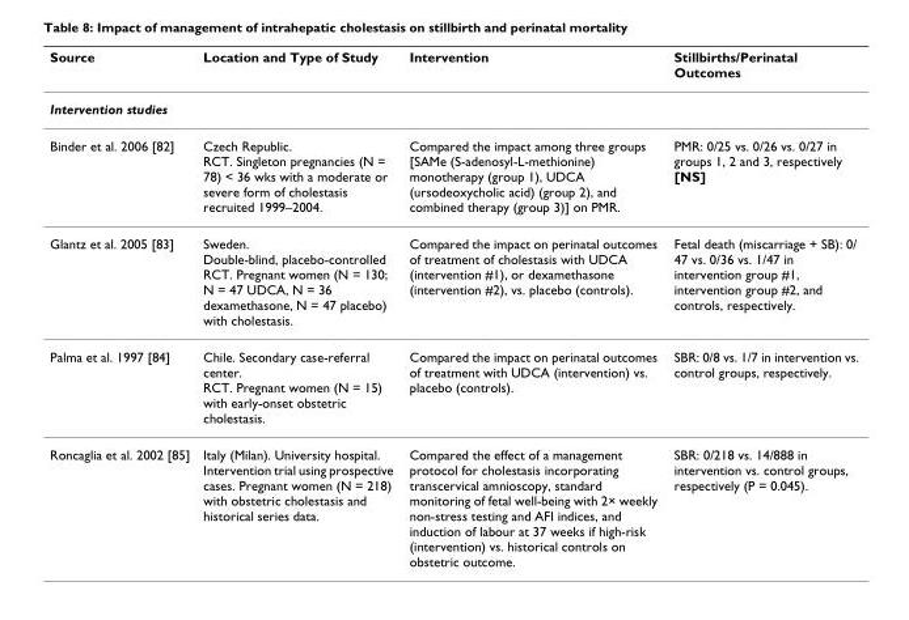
<table><thead><tr><td>Source</td><td>Location and Type of Study</td><td>Intervention</td><td>Stillbirths/Perinatal Outcomes</td></tr></thead><tbody><tr><td colspan="4">Intervention studies</td></tr><tr><td>Binder et al. 2006 [82]</td><td>Czech Republic. RCT. Singleton pregnancies (N = 78) &lt; 36 wks with a moderate or severe form of cholestasis recruited 1999–2004.</td><td>Compared the impact among three groups [SAMe (S-adenosyl-L-methionine) monotherapy (group 1), UDCA (ursodeoxycholic acid) (group 2), and combined therapy (group 3)] on PMR.</td><td>PMR: 0/25 vs. 0/26 vs. 0/27 in groups 1, 2 and 3, respectively [NS]</td></tr><tr><td>Glantz et al. 2005 [83]</td><td>Sweden. Double-blind, placebo-controlled RCT. Pregnant women (N = 130; N = 47 UDCA, N = 36 dexamethasone, N = 47 placebo) with cholestasis.</td><td>Compared the impact on perinatal outcomes of treatment of cholestasis with UDCA (intervention #1), or dexamethasone (intervention #2), vs. placebo (controls).</td><td>Fetal death (miscarriage + SB): 0/ 47 vs. 0/36 vs. 1/47 in intervention group #1, intervention group #2, and controls, respectively.</td></tr><tr><td>Palma et al. 1997 [84]</td><td>Chile. Secondary case-referral center. RCT. Pregnant women (N = 15) with early-onset obstetric cholestasis.</td><td>Compared the impact on perinatal outcomes of treatment with UDCA (intervention) vs. placebo (controls).</td><td>SBR: 0/8 vs. 1/7 in intervention vs. control groups, respectively.</td></tr><tr><td>Roncaglia et al. 2002 [85]</td><td>Italy (Milan). University hospital. Intervention trial using prospective cases. Pregnant women (N = 218) with obstetric cholestasis and historical series data.</td><td>Compared the effect of a management protocol for cholestasis incorporating transcervical amnioscopy, standard monitoring of fetal well-being with 2× weekly non-stress testing and AFI indices, and induction of labour at 37 weeks if high-risk (intervention) vs. historical controls on obstetric outcome.</td><td>SBR: 0/218 vs. 14/888 in intervention vs. control groups, respectively (P = 0.045).</td></tr></tbody></table>